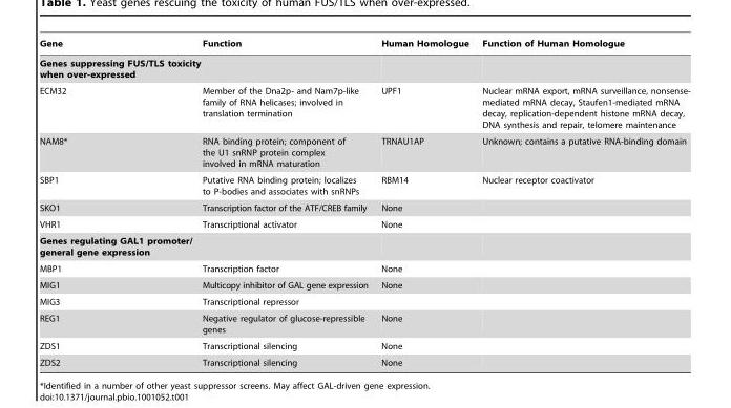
<table><thead><tr><td>Gene</td><td>Function</td><td>Human Homologue</td><td>Function of Human Homologue</td></tr></thead><tbody><tr><td colspan="4">Genes suppressing FUS/TLS toxicity when over-expressed</td></tr><tr><td>ECM32</td><td>Member of the Dna2p- and Nam7p-like family of RNA helicases; involved in translation termination</td><td>UPF1</td><td>Nuclear mRNA export, mRNA surveillance, nonsense- mediated mRNA decay, Staufen1-mediated mRNA decay, replication-dependent histone mRNA decay, DNA synthesis and repair, telomere maintenance</td></tr><tr><td>NAM8*</td><td>RNA binding protein; component of the U1 snRNP protein complex involved in mRNA maturation</td><td>TRNAU1AP</td><td>Unknown; contains a putative RNA-binding domain</td></tr><tr><td>SBP1</td><td>Putative RNA binding protein; localizes to P-bodies and associates with snRNPs</td><td>RBM14</td><td>Nuclear receptor coactivator</td></tr><tr><td>SKO1</td><td>Transcription factor of the ATF/CREB family</td><td>None</td><td></td></tr><tr><td>VHR1</td><td>Transcriptional activator</td><td>None</td><td></td></tr><tr><td colspan="4">Genes regulating GAL1 promoter/ general gene expression</td></tr><tr><td>MBP1</td><td>Transcription factor</td><td>None</td><td></td></tr><tr><td>MIG1</td><td>Multicopy inhibitor of GAL gene expression</td><td>None</td><td></td></tr><tr><td>MIG3</td><td>Transcriptional repressor</td><td></td><td></td></tr><tr><td>REG1</td><td>Negative regulator of glucose-repressible genes</td><td>None</td><td></td></tr><tr><td>ZDS1</td><td>Transcriptional silencing</td><td>None</td><td></td></tr><tr><td>ZDS2</td><td>Transcriptional silencing</td><td>None</td><td></td></tr></tbody></table>